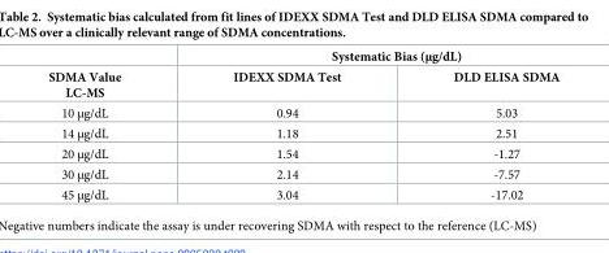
<table><thead><tr><td rowspan="2">SDMA Value LC-MS</td><td colspan="2">Systematic Bias (μg/dL)</td></tr><tr><td>IDEXX SDMA Test</td><td>DLD ELISA SDMA</td></tr></thead><tbody><tr><td>10 μg/dL</td><td>0.94</td><td>5.03</td></tr><tr><td>14 μg/dL</td><td>1.18</td><td>2.51</td></tr><tr><td>20 μg/dL</td><td>1.54</td><td>-1.27</td></tr><tr><td>30 μg/dL</td><td>2.14</td><td>-7.57</td></tr><tr><td>45 μg/dL</td><td>3.04</td><td>-17.02</td></tr></tbody></table>